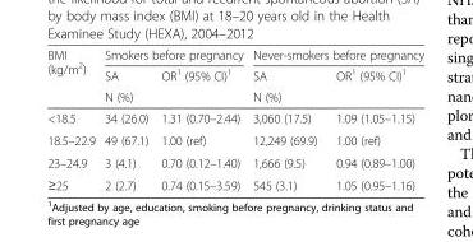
<table><thead><tr><td rowspan="3">BMI (kg/m<sup>2</sup>)</td><td colspan="2">Smokers before pregnancy</td><td colspan="2">Never-smokers before pregnancy</td></tr><tr><td rowspan="2">SA N (%)</td><td rowspan="2">OR<sup>1</sup> (95% CI)<sup>1</sup></td><td rowspan="2">SA N (%)</td><td rowspan="2">OR<sup>1</sup> (95% CI)<sup>1</sup></td></tr><tr></tr></thead><tbody><tr><td>&lt;18.5</td><td>34 (26.0)</td><td>1.31 (0.70–2.44)</td><td>3,060 (17.5)</td><td>1.09 (1.05–1.15)</td></tr><tr><td>18.5–22.9</td><td>49 (67.1)</td><td>1.00 (ref)</td><td>12,249 (69.9)</td><td>1.00 (ref)</td></tr><tr><td>23–24.9</td><td>3 (4.1)</td><td>0.70 (0.12–1.40)</td><td>1,666 (9.5)</td><td>0.94 (0.89–1.00)</td></tr><tr><td>≥25</td><td>2 (2.7)</td><td>0.74 (0.15–3.59)</td><td>545 (3.1)</td><td>1.05 (0.95–1.16)</td></tr></tbody></table>